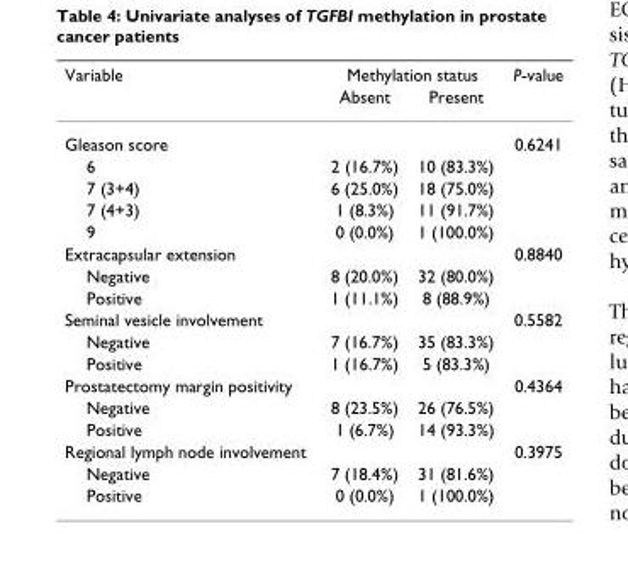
<table><thead><tr><td rowspan="2">Variable</td><td colspan="2">Methylation status</td><td rowspan="2">P-value</td></tr><tr><td>Absent</td><td>Present</td></tr></thead><tbody><tr><td>Gleason score</td><td></td><td></td><td>0.6241</td></tr><tr><td>6</td><td>2 (16.7%)</td><td>10 (83.3%)</td><td></td></tr><tr><td>7 (3+4)</td><td>6 (25.0%)</td><td>18 (75.0%)</td><td></td></tr><tr><td>7 (4+3)</td><td>1 (8.3%)</td><td>11 (91.7%)</td><td></td></tr><tr><td>9</td><td>0 (0.0%)</td><td>1 (100.0%)</td><td></td></tr><tr><td>Extracapsular extension</td><td></td><td></td><td>0.8840</td></tr><tr><td>Negative</td><td>8 (20.0%)</td><td>32 (80.0%)</td><td></td></tr><tr><td>Positive</td><td>1 (11.1%)</td><td>8 (88.9%)</td><td></td></tr><tr><td>Seminal vesicle involvement</td><td></td><td></td><td>0.5582</td></tr><tr><td>Negative</td><td>7 (16.7%)</td><td>35 (83.3%)</td><td></td></tr><tr><td>Positive</td><td>1 (16.7%)</td><td>5 (83.3%)</td><td></td></tr><tr><td>Prostatectomy margin positivity</td><td></td><td></td><td>0.4364</td></tr><tr><td>Negative</td><td>8 (23.5%)</td><td>26 (76.5%)</td><td></td></tr><tr><td>Positive</td><td>1 (6.7%)</td><td>14 (93.3%)</td><td></td></tr><tr><td>Regional lymph node involvement</td><td></td><td></td><td>0.3975</td></tr><tr><td>Negative</td><td>7 (18.4%)</td><td>31 (81.6%)</td><td></td></tr><tr><td>Positive</td><td>0 (0.0%)</td><td>1 (100.0%)</td><td></td></tr></tbody></table>